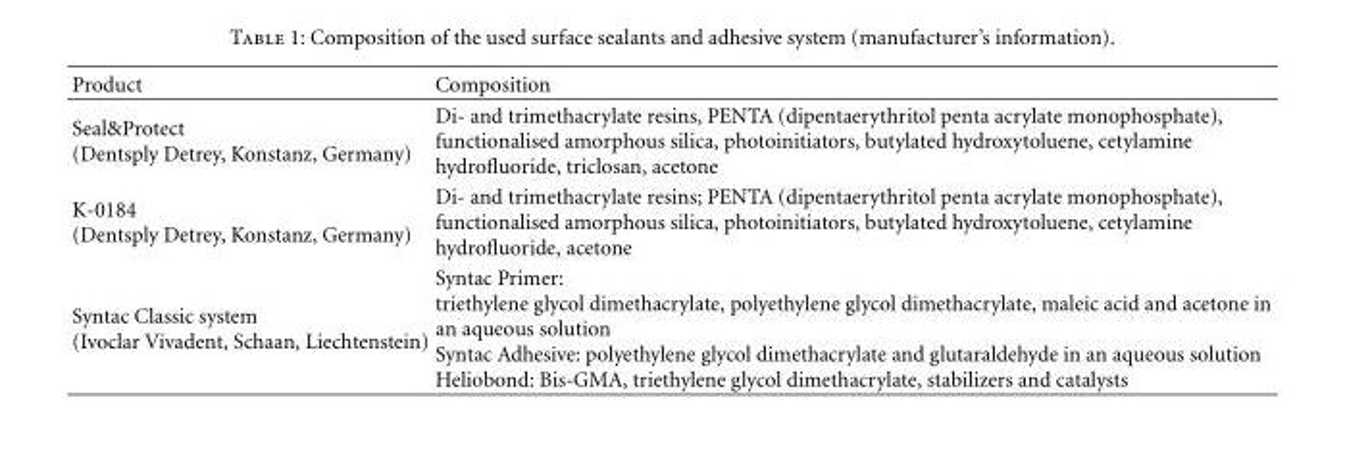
<table><thead><tr><td>Product</td><td>Composition</td></tr></thead><tbody><tr><td>Seal&amp;Protect (Dentsply Detrey, Konstanz, Germany)</td><td>Di- and trimethacrylate resins, PENTA (dipentaerythritol penta acrylate monophosphate), functionalised amorphous silica, photoinitiators, butylated hydroxytoluene, cetylamine hydrofluoride, triclosan, acetone</td></tr><tr><td>K-0184 (Dentsply Detrey, Konstanz, Germany)</td><td>Di- and trimethacrylate resins; PENTA (dipentaerythritol penta acrylate monophosphate), functionalised amorphous silica, photoinitiators, butylated hydroxytoluene, cetylamine hydrofluoride, acetone</td></tr><tr><td>Syntac Classic system (Ivoclar Vivadent, Schaan, Liechtenstein)</td><td>Syntac Primer: triethylene glycol dimethacrylate, polyethylene glycol dimethacrylate, maleic acid and acetone in an aqueous solution Syntac Adhesive: polyethylene glycol dimethacrylate and glutaraldehyde in an aqueous solution Heliobond: Bis-GMA, triethylene glycol dimethacrylate, stabilizers and catalysts</td></tr></tbody></table>